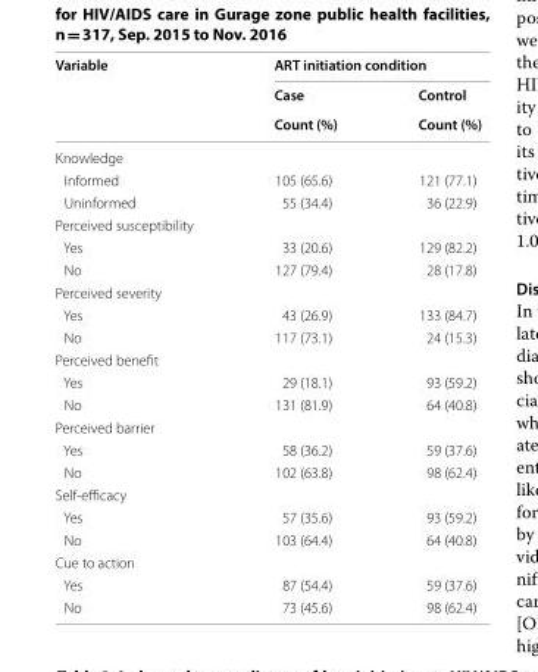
<table><thead><tr><td rowspan="3">Variable</td><td colspan="2">ART initiation condition</td></tr><tr><td rowspan="2">Case Count (%)</td><td rowspan="2">Control Count (%)</td></tr><tr></tr></thead><tbody><tr><td colspan="3">Knowledge</td></tr><tr><td>Informed</td><td>105 (65.6)</td><td>121 (77.1)</td></tr><tr><td>Uninformed</td><td>55 (34.4)</td><td>36 (22.9)</td></tr><tr><td colspan="3">Perceived susceptibility</td></tr><tr><td>Yes</td><td>33 (20.6)</td><td>129 (82.2)</td></tr><tr><td>No</td><td>127 (79.4)</td><td>28 (17.8)</td></tr><tr><td colspan="3">Perceived severity</td></tr><tr><td>Yes</td><td>43 (26.9)</td><td>133 (84.7)</td></tr><tr><td>No</td><td>117 (73.1)</td><td>24 (15.3)</td></tr><tr><td colspan="3">Perceived benefit</td></tr><tr><td>Yes</td><td>29 (18.1)</td><td>93 (59.2)</td></tr><tr><td>No</td><td>131 (81.9)</td><td>64 (40.8)</td></tr><tr><td colspan="3">Perceived barrier</td></tr><tr><td>Yes</td><td>58 (36.2)</td><td>59 (37.6)</td></tr><tr><td>No</td><td>102 (63.8)</td><td>98 (62.4)</td></tr><tr><td colspan="3">Self-efficacy</td></tr><tr><td>Yes</td><td>57 (35.6)</td><td>93 (59.2)</td></tr><tr><td>No</td><td>103 (64.4)</td><td>64 (40.8)</td></tr><tr><td colspan="3">Cue to action</td></tr><tr><td>Yes</td><td>87 (54.4)</td><td>59 (37.6)</td></tr><tr><td>No</td><td>73 (45.6)</td><td>98 (62.4)</td></tr></tbody></table>